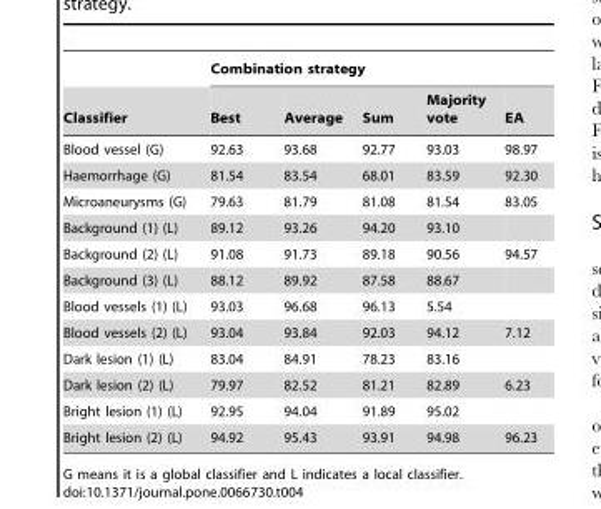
<table><thead><tr><td rowspan="2">Classifier</td><td colspan="5">Combination strategy</td></tr><tr><td>Best</td><td>Average</td><td>Sum</td><td>Majority vote</td><td>EA</td></tr></thead><tbody><tr><td>Blood vessel (G)</td><td>92.63</td><td>93.68</td><td>92.77</td><td>93.03</td><td>98.97</td></tr><tr><td>Haemorrhage (G)</td><td>81.54</td><td>83.54</td><td>68.01</td><td>83.59</td><td>92.30</td></tr><tr><td>Microaneurysms (G)</td><td>79.63</td><td>81.79</td><td>81.08</td><td>81.54</td><td>83.05</td></tr><tr><td>Background (1) (L)</td><td>89.12</td><td>93.26</td><td>94.20</td><td>93.10</td><td></td></tr><tr><td>Background (2) (L)</td><td>91.08</td><td>91.73</td><td>89.18</td><td>90.56</td><td>94.57</td></tr><tr><td>Background (3) (L)</td><td>88.12</td><td>89.92</td><td>87.58</td><td>88.67</td><td></td></tr><tr><td>Blood vessels (1) (L)</td><td>93.03</td><td>96.68</td><td>96.13</td><td>5.54</td><td></td></tr><tr><td>Blood vessels (2) (L)</td><td>93.04</td><td>93.84</td><td>92.03</td><td>94.12</td><td>7.12</td></tr><tr><td>Dark lesion (1) (L)</td><td>83.04</td><td>84.91</td><td>78.23</td><td>83.16</td><td></td></tr><tr><td>Dark lesion (2) (L)</td><td>79.97</td><td>82.52</td><td>81.21</td><td>82.89</td><td>6.23</td></tr><tr><td>Bright lesion (1) (L)</td><td>92.95</td><td>94.04</td><td>91.89</td><td>95.02</td><td></td></tr><tr><td>Bright lesion (2) (L)</td><td>94.92</td><td>95.43</td><td>93.91</td><td>94.98</td><td>96.23</td></tr></tbody></table>